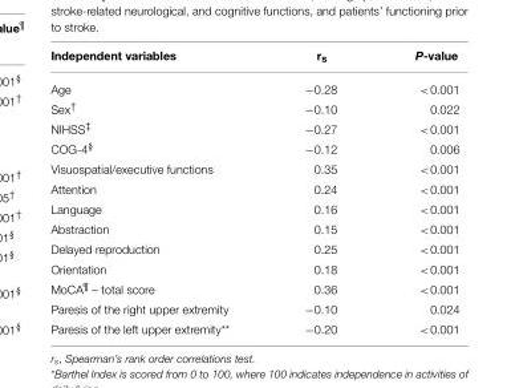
<table><thead><tr><td>Independent variables</td><td>r<sub>s</sub></td><td>P-value</td></tr></thead><tbody><tr><td>Age</td><td>−0.28</td><td>&lt;0.001</td></tr><tr><td>Sex<sup>†</sup></td><td>−0.10</td><td>0.022</td></tr><tr><td>NIHSS<sup>‡</sup></td><td>−0.27</td><td>&lt;0.001</td></tr><tr><td>COG-4<sup>§</sup></td><td>−0.12</td><td>0.006</td></tr><tr><td>Visuospatial/executive functions</td><td>0.35</td><td>&lt;0.001</td></tr><tr><td>Attention</td><td>0.24</td><td>&lt;0.001</td></tr><tr><td>Language</td><td>0.16</td><td>&lt;0.001</td></tr><tr><td>Abstraction</td><td>0.15</td><td>&lt;0.001</td></tr><tr><td>Delayed reproduction</td><td>0.25</td><td>&lt;0.001</td></tr><tr><td>Orientation</td><td>0.18</td><td>&lt;0.001</td></tr><tr><td>MoCA<sup>¶</sup> – total score</td><td>0.36</td><td>&lt;0.001</td></tr><tr><td>Paresis of the right upper extremity</td><td>−0.10</td><td>0.024</td></tr><tr><td>Paresis of the left upper extremity**</td><td>−0.20</td><td>&lt;0.001</td></tr></tbody></table>